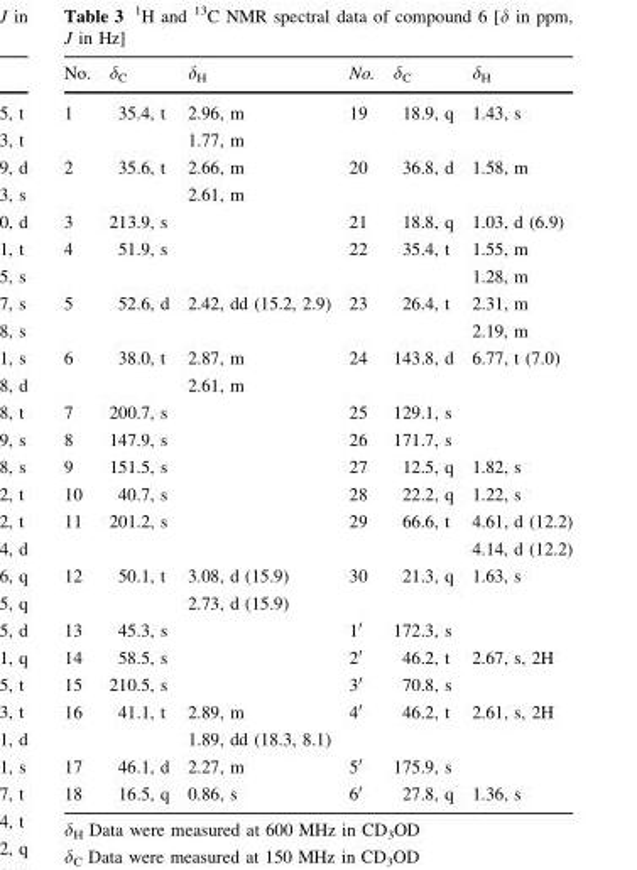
<table><thead><tr><td>No.</td><td>δ<sub>C</sub></td><td>δ<sub>H</sub></td><td>No.</td><td>δ<sub>C</sub></td><td>δ<sub>H</sub></td></tr></thead><tbody><tr><td rowspan="2">1</td><td rowspan="2">35.4, t</td><td>2.96, m</td><td rowspan="2">19</td><td rowspan="2">18.9, q</td><td rowspan="2">1.43, s</td></tr><tr><td>1.77, m</td></tr><tr><td rowspan="2">2</td><td rowspan="2">35.6, t</td><td>2.66, m</td><td rowspan="2">20</td><td rowspan="2">36.8, d</td><td rowspan="2">1.58, m</td></tr><tr><td>2.61, m</td></tr><tr><td>3</td><td>213.9, s</td><td></td><td>21</td><td>18.8, q</td><td>1.03, d (6.9)</td></tr><tr><td rowspan="2">4</td><td rowspan="2">51.9, s</td><td rowspan="2"></td><td rowspan="2">22</td><td rowspan="2">35.4, t</td><td>1.55, m</td></tr><tr><td>1.28, m</td></tr><tr><td rowspan="2">5</td><td rowspan="2">52.6, d</td><td rowspan="2">2.42, dd (15.2, 2.9)</td><td rowspan="2">23</td><td rowspan="2">26.4, t</td><td>2.31, m</td></tr><tr><td>2.19, m</td></tr><tr><td rowspan="2">6</td><td rowspan="2">38.0, t</td><td>2.87, m</td><td rowspan="2">24</td><td rowspan="2">143.8, d</td><td rowspan="2">6.77, t (7.0)</td></tr><tr><td>2.61, m</td></tr><tr><td>7</td><td>200.7, s</td><td></td><td>25</td><td>129.1, s</td><td></td></tr><tr><td>8</td><td>147.9, s</td><td></td><td>26</td><td>171.7, s</td><td></td></tr><tr><td>9</td><td>151.5, s</td><td></td><td>27</td><td>12.5, q</td><td>1.82, s</td></tr><tr><td>10</td><td>40.7, s</td><td></td><td>28</td><td>22.2, q</td><td>1.22, s</td></tr><tr><td rowspan="2">11</td><td rowspan="2">201.2, s</td><td rowspan="2"></td><td rowspan="2">29</td><td rowspan="2">66.6, t</td><td>4.61, d (12.2)</td></tr><tr><td>4.14, d (12.2)</td></tr><tr><td rowspan="2">12</td><td rowspan="2">50.1, t</td><td>3.08, d (15.9)</td><td rowspan="2">30</td><td rowspan="2">21.3, q</td><td rowspan="2">1.63, s</td></tr><tr><td>2.73, d (15.9)</td></tr><tr><td>13</td><td>45.3, s</td><td></td><td>1′</td><td>172.3, s</td><td></td></tr><tr><td>14</td><td>58.5, s</td><td></td><td>2′</td><td>46.2, t</td><td>2.67, s, 2H</td></tr><tr><td>15</td><td>210.5, s</td><td></td><td>3′</td><td>70.8, s</td><td></td></tr><tr><td rowspan="2">16</td><td rowspan="2">41.1, t</td><td>2.89, m</td><td rowspan="2">4′</td><td rowspan="2">46.2, t</td><td rowspan="2">2.61, s, 2H</td></tr><tr><td>1.89, dd (18.3, 8.1)</td></tr><tr><td>17</td><td>46.1, d</td><td>2.27, m</td><td>5′</td><td>175.9, s</td><td></td></tr><tr><td>18</td><td>16.5, q</td><td>0.86, s</td><td>6′</td><td>27.8, q</td><td>1.36, s</td></tr></tbody></table>